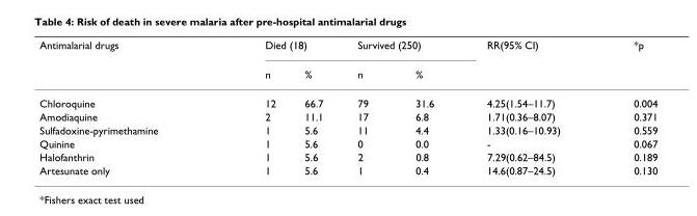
<table><thead><tr><td rowspan="2">Antimalarial drugs</td><td colspan="2">Died (18)</td><td colspan="2">Survived (250)</td><td rowspan="2">RR(95% CI)</td><td rowspan="2">*p</td></tr><tr><td>n</td><td>%</td><td>n</td><td>%</td></tr></thead><tbody><tr><td>Chloroquine</td><td>12</td><td>66.7</td><td>79</td><td>31.6</td><td>4.25(1.54–11.7)</td><td>0.004</td></tr><tr><td>Amodiaquine</td><td>2</td><td>11.1</td><td>17</td><td>6.8</td><td>1.71(0.36–8.07)</td><td>0.371</td></tr><tr><td>Sulfadoxine-pyrimethamine</td><td>1</td><td>5.6</td><td>11</td><td>4.4</td><td>1.33(0.16–10.93)</td><td>0.559</td></tr><tr><td>Quinine</td><td>1</td><td>5.6</td><td>0</td><td>0.0</td><td>-</td><td>0.067</td></tr><tr><td>Halofanthrin</td><td>1</td><td>5.6</td><td>2</td><td>0.8</td><td>7.29(0.62–84.5)</td><td>0.189</td></tr><tr><td>Artesunate only</td><td>1</td><td>5.6</td><td>1</td><td>0.4</td><td>14.6(0.87–24.5)</td><td>0.130</td></tr></tbody></table>